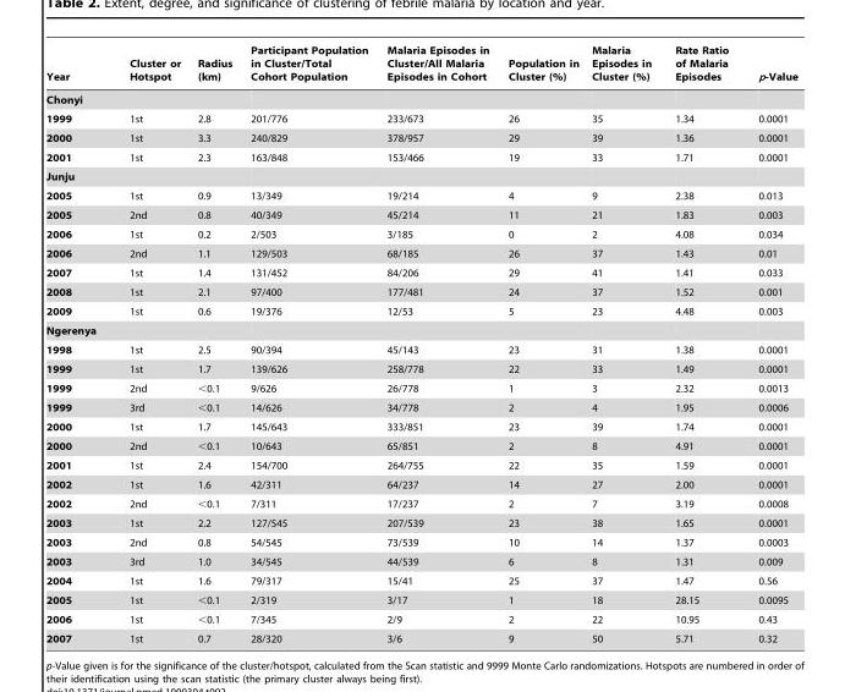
<table><thead><tr><td>Year</td><td>Cluster or Hotspot</td><td>Radius (km)</td><td>Participant Population in Cluster/Total Cohort Population</td><td>Malaria Episodes in Cluster/All Malaria Episodes in Cohort</td><td>Population in Cluster (%)</td><td>Malaria Episodes in Cluster (%)</td><td>Rate Ratio of Malaria Episodes</td><td>p-Value</td></tr></thead><tbody><tr><td colspan="9">Chonyi</td></tr><tr><td>1999</td><td>1st</td><td>2.8</td><td>201/776</td><td>233/673</td><td>26</td><td>35</td><td>1.34</td><td>0.0001</td></tr><tr><td>2000</td><td>1st</td><td>3.3</td><td>240/829</td><td>378/957</td><td>29</td><td>39</td><td>1.36</td><td>0.0001</td></tr><tr><td>2001</td><td>1st</td><td>2.3</td><td>163/848</td><td>153/466</td><td>19</td><td>33</td><td>1.71</td><td>0.0001</td></tr><tr><td colspan="9">Junju</td></tr><tr><td>2005</td><td>1st</td><td>0.9</td><td>13/349</td><td>19/214</td><td>4</td><td>9</td><td>2.38</td><td>0.013</td></tr><tr><td>2005</td><td>2nd</td><td>0.8</td><td>40/349</td><td>45/214</td><td>11</td><td>21</td><td>1.83</td><td>0.003</td></tr><tr><td>2006</td><td>1st</td><td>0.2</td><td>2/503</td><td>3/185</td><td>0</td><td>2</td><td>4.08</td><td>0.034</td></tr><tr><td>2006</td><td>2nd</td><td>1.1</td><td>129/503</td><td>68/185</td><td>26</td><td>37</td><td>1.43</td><td>0.01</td></tr><tr><td>2007</td><td>1st</td><td>1.4</td><td>131/452</td><td>84/206</td><td>29</td><td>41</td><td>1.41</td><td>0.033</td></tr><tr><td>2008</td><td>1st</td><td>2.1</td><td>97/400</td><td>177/481</td><td>24</td><td>37</td><td>1.52</td><td>0.001</td></tr><tr><td>2009</td><td>1st</td><td>0.6</td><td>19/376</td><td>12/53</td><td>5</td><td>23</td><td>4.48</td><td>0.003</td></tr><tr><td colspan="9">Ngerenya</td></tr><tr><td>1998</td><td>1st</td><td>2.5</td><td>90/394</td><td>45/143</td><td>23</td><td>31</td><td>1.38</td><td>0.0001</td></tr><tr><td>1999</td><td>1st</td><td>1.7</td><td>139/626</td><td>258/778</td><td>22</td><td>33</td><td>1.49</td><td>0.0001</td></tr><tr><td>1999</td><td>2nd</td><td>&lt;0.1</td><td>9/626</td><td>26/778</td><td>1</td><td>3</td><td>2.32</td><td>0.0013</td></tr><tr><td>1999</td><td>3rd</td><td>&lt;0.1</td><td>14/626</td><td>34/778</td><td>2</td><td>4</td><td>1.95</td><td>0.0006</td></tr><tr><td>2000</td><td>1st</td><td>1.7</td><td>145/643</td><td>333/851</td><td>23</td><td>39</td><td>1.74</td><td>0.0001</td></tr><tr><td>2000</td><td>2nd</td><td>&lt;0.1</td><td>10/643</td><td>65/851</td><td>2</td><td>8</td><td>4.91</td><td>0.0001</td></tr><tr><td>2001</td><td>1st</td><td>2.4</td><td>154/700</td><td>264/755</td><td>22</td><td>35</td><td>1.59</td><td>0.0001</td></tr><tr><td>2002</td><td>1st</td><td>1.6</td><td>42/311</td><td>64/237</td><td>14</td><td>27</td><td>2.00</td><td>0.0001</td></tr><tr><td>2002</td><td>2nd</td><td>&lt;0.1</td><td>7/311</td><td>17/237</td><td>2</td><td>7</td><td>3.19</td><td>0.0008</td></tr><tr><td>2003</td><td>1st</td><td>2.2</td><td>127/545</td><td>207/539</td><td>23</td><td>38</td><td>1.65</td><td>0.0001</td></tr><tr><td>2003</td><td>2nd</td><td>0.8</td><td>54/545</td><td>73/539</td><td>10</td><td>14</td><td>1.37</td><td>0.0003</td></tr><tr><td>2003</td><td>3rd</td><td>1.0</td><td>34/545</td><td>44/539</td><td>6</td><td>8</td><td>1.31</td><td>0.009</td></tr><tr><td>2004</td><td>1st</td><td>1.6</td><td>79/317</td><td>15/41</td><td>25</td><td>37</td><td>1.47</td><td>0.56</td></tr><tr><td>2005</td><td>1st</td><td>&lt;0.1</td><td>2/319</td><td>3/17</td><td>1</td><td>18</td><td>28.15</td><td>0.0095</td></tr><tr><td>2006</td><td>1st</td><td>&lt;0.1</td><td>7/345</td><td>2/9</td><td>2</td><td>22</td><td>10.95</td><td>0.43</td></tr><tr><td>2007</td><td>1st</td><td>0.7</td><td>28/320</td><td>3/6</td><td>9</td><td>50</td><td>5.71</td><td>0.32</td></tr></tbody></table>